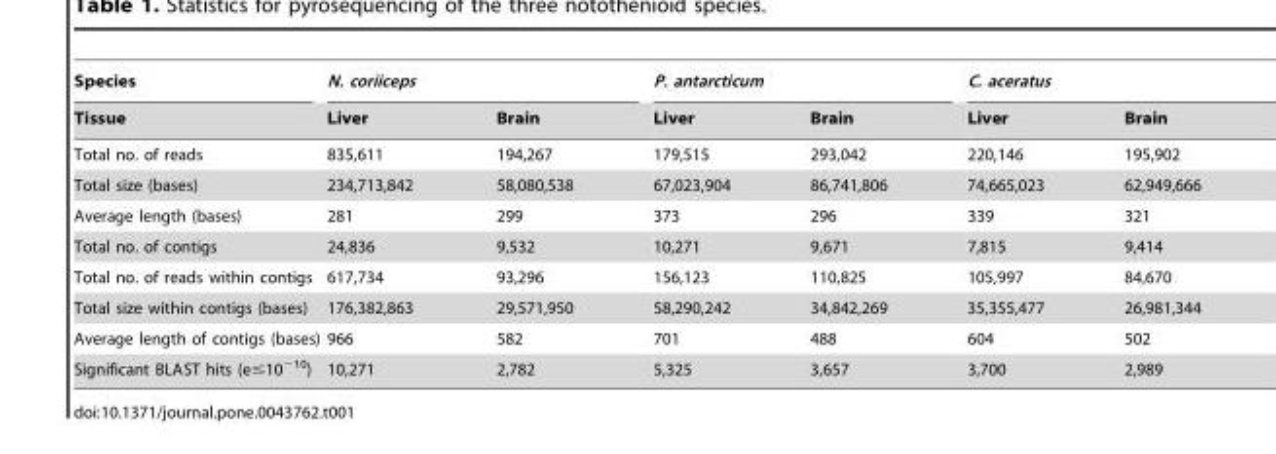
<table><thead><tr><td rowspan="2">Species Tissue</td><td colspan="2">N. coriiceps</td><td colspan="2">P. antarcticum</td><td colspan="2">C. aceratus</td></tr><tr><td>Liver</td><td>Brain</td><td>Liver</td><td>Brain</td><td>Liver</td><td>Brain</td></tr></thead><tbody><tr><td>Total no. of reads</td><td>835,611</td><td>194,267</td><td>179,515</td><td>293,042</td><td>220,146</td><td>195,902</td></tr><tr><td>Total size (bases)</td><td>234,713,842</td><td>58,080,538</td><td>67,023,904</td><td>86,741,806</td><td>74,665,023</td><td>62,949,666</td></tr><tr><td>Average length (bases)</td><td>281</td><td>299</td><td>373</td><td>296</td><td>339</td><td>321</td></tr><tr><td>Total no. of contigs</td><td>24,836</td><td>9,532</td><td>10,271</td><td>9,671</td><td>7,815</td><td>9,414</td></tr><tr><td>Total no. of reads within contigs</td><td>617,734</td><td>93,296</td><td>156,123</td><td>110,825</td><td>105,997</td><td>84,670</td></tr><tr><td>Total size within contigs (bases)</td><td>176,382,863</td><td>29,571,950</td><td>58,290,242</td><td>34,842,269</td><td>35,355,477</td><td>26,981,344</td></tr><tr><td>Average length of contigs (bases)</td><td>966</td><td>582</td><td>701</td><td>488</td><td>604</td><td>502</td></tr><tr><td>Significant BLAST hits (e≤10<sup>−10</sup>)</td><td>10,271</td><td>2,782</td><td>5,325</td><td>3,657</td><td>3,700</td><td>2,989</td></tr></tbody></table>